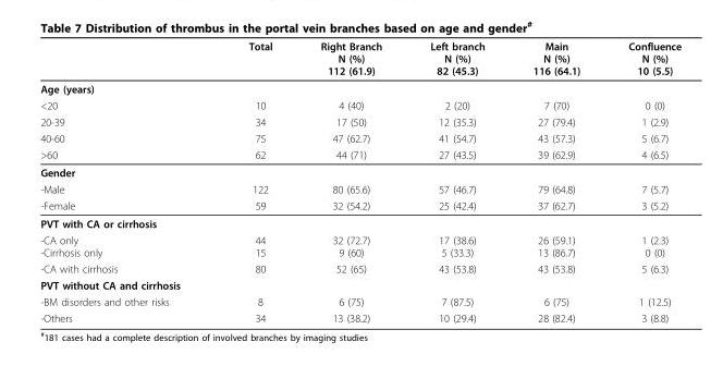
<table><thead><tr><td></td><td>Total</td><td>Right Branch N (%) 112 (61.9)</td><td>Left branch N (%) 82 (45.3)</td><td>Main N (%) 116 (64.1)</td><td>Confluence N (%) 10 (5.5)</td></tr></thead><tbody><tr><td colspan="6">Age (years)</td></tr><tr><td>&lt;20</td><td>10</td><td>4 (40)</td><td>2 (20)</td><td>7 (70)</td><td>0 (0)</td></tr><tr><td>20-39</td><td>34</td><td>17 (50)</td><td>12 (35.3)</td><td>27 (79.4)</td><td>1 (2.9)</td></tr><tr><td>40-60</td><td>75</td><td>47 (62.7)</td><td>41 (54.7)</td><td>43 (57.3)</td><td>5 (6.7)</td></tr><tr><td>&gt;60</td><td>62</td><td>44 (71)</td><td>27 (43.5)</td><td>39 (62.9)</td><td>4 (6.5)</td></tr><tr><td colspan="6">Gender</td></tr><tr><td>-Male</td><td>122</td><td>80 (65.6)</td><td>57 (46.7)</td><td>79 (64.8)</td><td>7 (5.7)</td></tr><tr><td>-Female</td><td>59</td><td>32 (54.2)</td><td>25 (42.4)</td><td>37 (62.7)</td><td>3 (5.2)</td></tr><tr><td colspan="6">PVT with CA or cirrhosis</td></tr><tr><td>-CA only -Cirrhosis only</td><td>44 15</td><td>32 (72.7) 9 (60)</td><td>17 (38.6) 5 (33.3)</td><td>26 (59.1) 13 (86.7)</td><td>1 (2.3) 0 (0)</td></tr><tr><td>-CA with cirrhosis</td><td>80</td><td>52 (65)</td><td>43 (53.8)</td><td>43 (53.8)</td><td>5 (6.3)</td></tr><tr><td colspan="6">PVT without CA and cirrhosis</td></tr><tr><td>-BM disorders and other risks</td><td>8</td><td>6 (75)</td><td>7 (87.5)</td><td>6 (75)</td><td>1 (12.5)</td></tr><tr><td>-Others</td><td>34</td><td>13 (38.2)</td><td>10 (29.4)</td><td>28 (82.4)</td><td>3 (8.8)</td></tr></tbody></table>